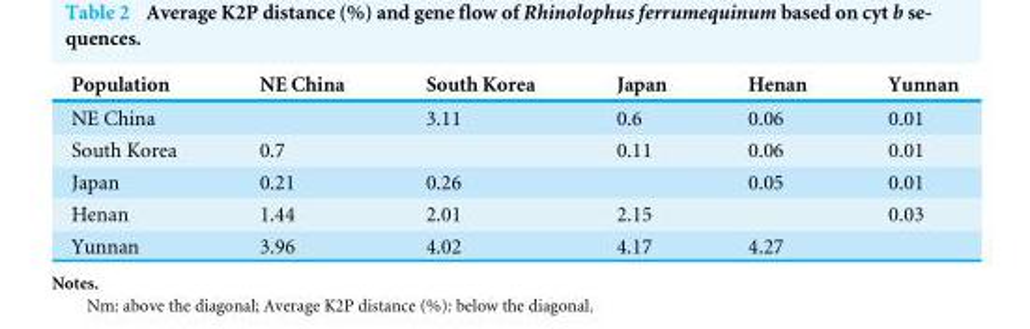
<table><thead><tr><td>Population</td><td>NE China</td><td>South Korea</td><td>Japan</td><td>Henan</td><td>Yunnan</td></tr></thead><tbody><tr><td>NE China</td><td></td><td>3.11</td><td>0.6</td><td>0.06</td><td>0.01</td></tr><tr><td>South Korea</td><td>0.7</td><td></td><td>0.11</td><td>0.06</td><td>0.01</td></tr><tr><td>Japan</td><td>0.21</td><td>0.26</td><td></td><td>0.05</td><td>0.01</td></tr><tr><td>Henan</td><td>1.44</td><td>2.01</td><td>2.15</td><td></td><td>0.03</td></tr><tr><td>Yunnan</td><td>3.96</td><td>4.02</td><td>4.17</td><td>4.27</td><td></td></tr></tbody></table>